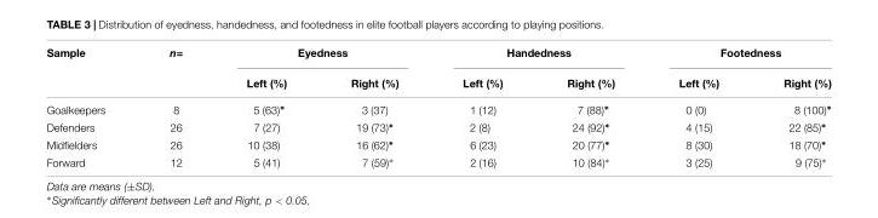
<table><thead><tr><td rowspan="2">Sample</td><td rowspan="2">n=</td><td colspan="2">Eyedness</td><td colspan="2">Handedness</td><td colspan="2">Footedness</td></tr><tr><td>Left (%)</td><td>Right (%)</td><td>Left (%)</td><td>Right (%)</td><td>Left (%)</td><td>Right (%)</td></tr></thead><tbody><tr><td>Goalkeepers</td><td>8</td><td>5 (63)∗</td><td>3 (37)</td><td>1 (12)</td><td>7 (88)∗</td><td>0 (0)</td><td>8 (100)∗</td></tr><tr><td>Defenders</td><td>26</td><td>7 (27)</td><td>19 (73)∗</td><td>2 (8)</td><td>24 (92)∗</td><td>4 (15)</td><td>22 (85)∗</td></tr><tr><td>Midfielders</td><td>26</td><td>10 (38)</td><td>16 (62)∗</td><td>6 (23)</td><td>20 (77)∗</td><td>8 (30)</td><td>18 (70)∗</td></tr><tr><td>Forward</td><td>12</td><td>5 (41)</td><td>7 (59)∗</td><td>2 (16)</td><td>10 (84)∗</td><td>3 (25)</td><td>9 (75)∗</td></tr></tbody></table>